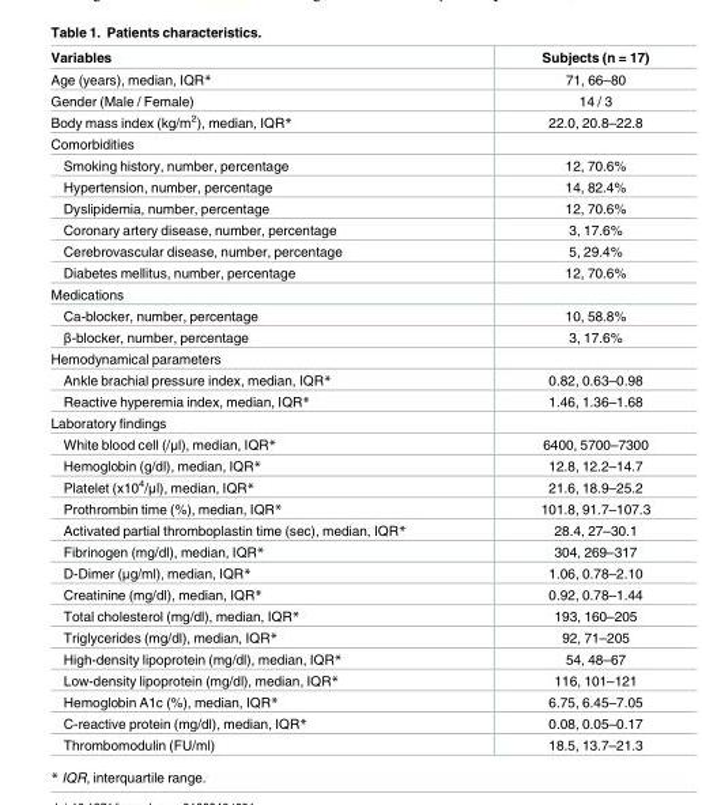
<table><thead><tr><td>Variables</td><td>Subjects (n = 17)</td></tr></thead><tbody><tr><td>Age (years), median, IQR*</td><td>71, 66–80</td></tr><tr><td>Gender (Male / Female)</td><td>14 / 3</td></tr><tr><td>Body mass index (kg/m<sup>2</sup>), median, IQR*</td><td>22.0, 20.8–22.8</td></tr><tr><td colspan="2">Comorbidities</td></tr><tr><td>Smoking history, number, percentage</td><td>12, 70.6%</td></tr><tr><td>Hypertension, number, percentage</td><td>14, 82.4%</td></tr><tr><td>Dyslipidemia, number, percentage</td><td>12, 70.6%</td></tr><tr><td>Coronary artery disease, number, percentage</td><td>3, 17.6%</td></tr><tr><td>Cerebrovascular disease, number, percentage</td><td>5, 29.4%</td></tr><tr><td>Diabetes mellitus, number, percentage</td><td>12, 70.6%</td></tr><tr><td colspan="2">Medications</td></tr><tr><td>Ca-blocker, number, percentage</td><td>10, 58.8%</td></tr><tr><td>β-blocker, number, percentage</td><td>3, 17.6%</td></tr><tr><td colspan="2">Hemodynamical parameters</td></tr><tr><td>Ankle brachial pressure index, median, IQR*</td><td>0.82, 0.63–0.98</td></tr><tr><td>Reactive hyperemia index, median, IQR*</td><td>1.46, 1.36–1.68</td></tr><tr><td colspan="2">Laboratory findings</td></tr><tr><td>White blood cell (/μl), median, IQR*</td><td>6400, 5700–7300</td></tr><tr><td>Hemoglobin (g/dl), median, IQR*</td><td>12.8, 12.2–14.7</td></tr><tr><td>Platelet (x10<sup>4</sup>/μl), median, IQR*</td><td>21.6, 18.9–25.2</td></tr><tr><td>Prothrombin time (%), median, IQR*</td><td>101.8, 91.7–107.3</td></tr><tr><td>Activated partial thromboplastin time (sec), median, IQR*</td><td>28.4, 27–30.1</td></tr><tr><td>Fibrinogen (mg/dl), median, IQR*</td><td>304, 269–317</td></tr><tr><td>D-Dimer (μg/ml), median, IQR*</td><td>1.06, 0.78–2.10</td></tr><tr><td>Creatinine (mg/dl), median, IQR*</td><td>0.92, 0.78–1.44</td></tr><tr><td>Total cholesterol (mg/dl), median, IQR*</td><td>193, 160–205</td></tr><tr><td>Triglycerides (mg/dl), median, IQR*</td><td>92, 71–205</td></tr><tr><td>High-density lipoprotein (mg/dl), median, IQR*</td><td>54, 48–67</td></tr><tr><td>Low-density lipoprotein (mg/dl), median, IQR*</td><td>116, 101–121</td></tr><tr><td>Hemoglobin A1c (%), median, IQR*</td><td>6.75, 6.45–7.05</td></tr><tr><td>C-reactive protein (mg/dl), median, IQR*</td><td>0.08, 0.05–0.17</td></tr><tr><td>Thrombomodulin (FU/ml)</td><td>18.5, 13.7–21.3</td></tr></tbody></table>